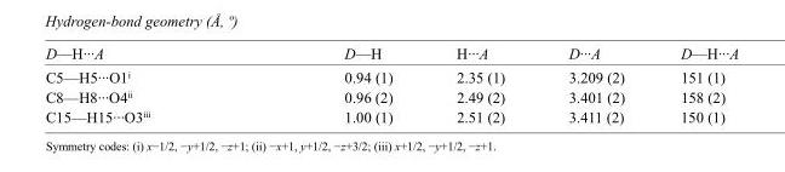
<table><tbody><tr><td>D—H···A</td><td>D—H</td><td>H···A</td><td>D···A</td><td>D—H···A</td></tr><tr><td>C5—H5···O1<sup>i</sup></td><td>0.94 (1)</td><td>2.35 (1)</td><td>3.209 (2)</td><td>151 (1)</td></tr><tr><td>C8—H8···O4<sup>ii</sup></td><td>0.96 (2)</td><td>2.49 (2)</td><td>3.401 (2)</td><td>158 (2)</td></tr><tr><td>C15—H15···O3<sup>iii</sup></td><td>1.00 (1)</td><td>2.51 (2)</td><td>3.411 (2)</td><td>150 (1)</td></tr></tbody></table>